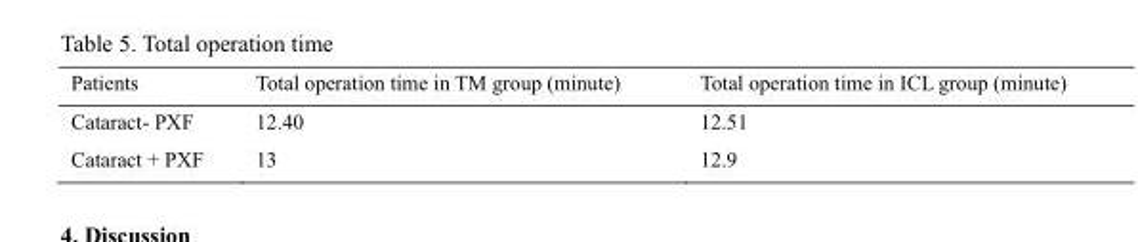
<table><thead><tr><td>Patients</td><td>Total operation time in TM group (minute)</td><td>Total operation time in ICL group (minute)</td></tr></thead><tbody><tr><td>Cataract- PXF</td><td>12.40</td><td>12.51</td></tr><tr><td>Cataract + PXF</td><td>13</td><td>12.9</td></tr></tbody></table>